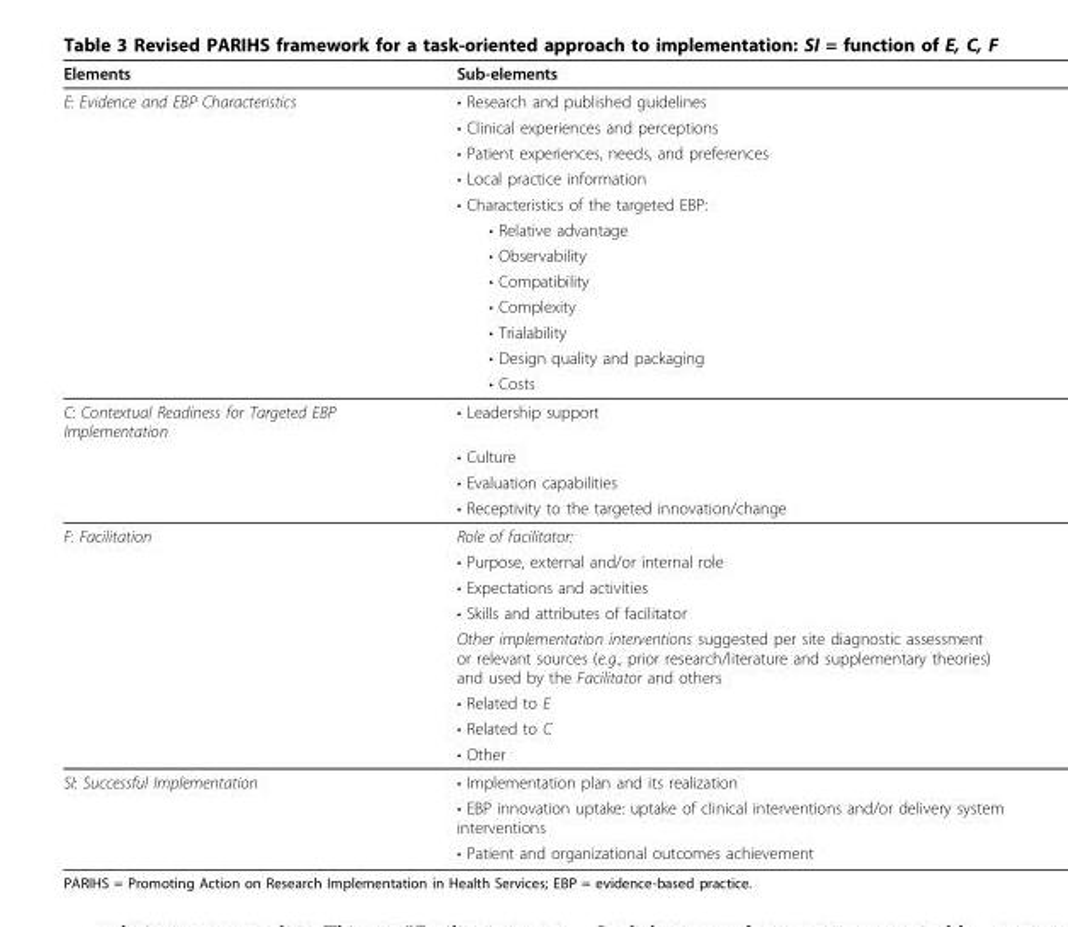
<table><thead><tr><td>Elements</td><td>Sub-elements</td></tr></thead><tbody><tr><td rowspan="12">E: Evidence and EBP Characteristics</td><td>• Research and published guidelines</td></tr><tr><td>• Clinical experiences and perceptions</td></tr><tr><td>• Patient experiences, needs, and preferences</td></tr><tr><td>• Local practice information</td></tr><tr><td>• Characteristics of the targeted EBP:</td></tr><tr><td>• Relative advantage</td></tr><tr><td>• Observability</td></tr><tr><td>• Compatibility</td></tr><tr><td>• Complexity</td></tr><tr><td>• Trialability</td></tr><tr><td>• Design quality and packaging</td></tr><tr><td>• Costs</td></tr><tr><td rowspan="4">C: Contextual Readiness for Targeted EBP Implementation</td><td>• Leadership support</td></tr><tr><td>• Culture</td></tr><tr><td>• Evaluation capabilities</td></tr><tr><td>• Receptivity to the targeted innovation/change</td></tr><tr><td rowspan="8">F: Facilitation</td><td>Role of facilitator:</td></tr><tr><td>• Purpose, external and/or internal role</td></tr><tr><td>• Expectations and activities</td></tr><tr><td>• Skills and attributes of facilitator</td></tr><tr><td>Other implementation interventions suggested per site diagnostic assessment or relevant sources (e.g., prior research/literature and supplementary theories) and used by the Facilitator and others</td></tr><tr><td>• Related to E</td></tr><tr><td>• Related to C</td></tr><tr><td>• Other</td></tr><tr><td rowspan="3">SI: Successful Implementation</td><td>• Implementation plan and its realization</td></tr><tr><td>• EBP innovation uptake: uptake of clinical interventions and/or delivery system interventions</td></tr><tr><td>• Patient and organizational outcomes achievement</td></tr></tbody></table>